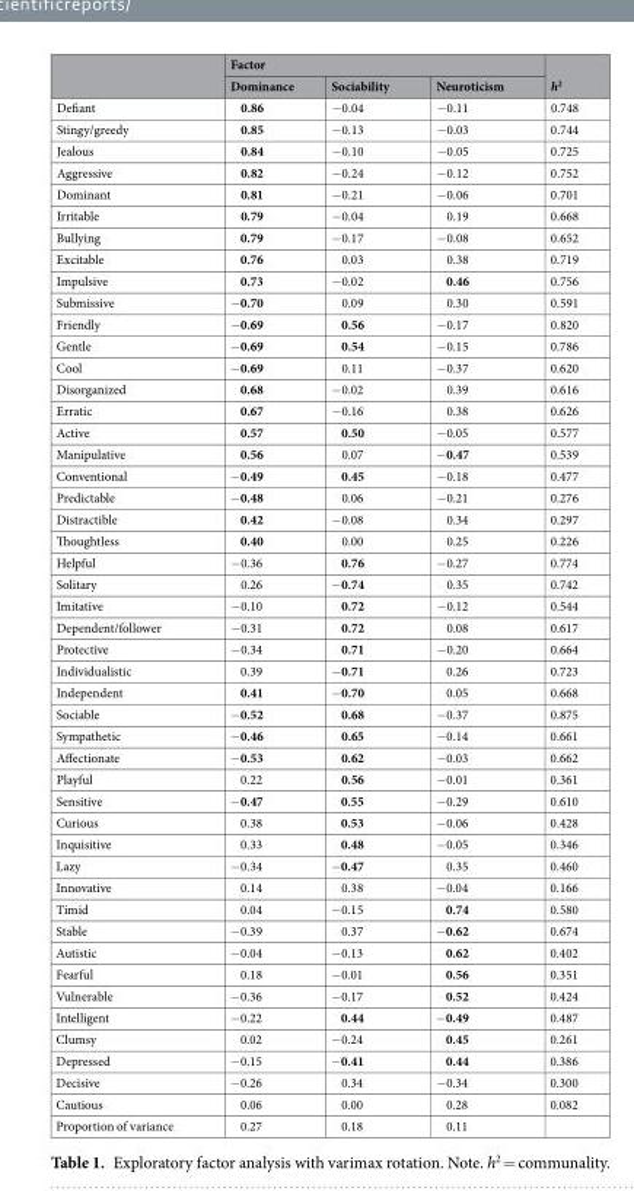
<table><thead><tr><td rowspan="2"></td><td colspan="3">Factor</td><td rowspan="2">h<sup>2</sup></td></tr><tr><td>Dominance</td><td>Sociability</td><td>Neuroticism</td></tr></thead><tbody><tr><td>Defiant</td><td>0.86</td><td>−0.04</td><td>−0.11</td><td>0.748</td></tr><tr><td>Stingy/greedy</td><td>0.85</td><td>−0.13</td><td>−0.03</td><td>0.744</td></tr><tr><td>Jealous</td><td>0.84</td><td>−0.10</td><td>−0.05</td><td>0.725</td></tr><tr><td>Aggressive</td><td>0.82</td><td>−0.24</td><td>−0.12</td><td>0.752</td></tr><tr><td>Dominant</td><td>0.81</td><td>−0.21</td><td>−0.06</td><td>0.701</td></tr><tr><td>Irritable</td><td>0.79</td><td>−0.04</td><td>0.19</td><td>0.668</td></tr><tr><td>Bullying</td><td>0.79</td><td>−0.17</td><td>−0.08</td><td>0.652</td></tr><tr><td>Excitable</td><td>0.76</td><td>0.03</td><td>0.38</td><td>0.719</td></tr><tr><td>Impulsive</td><td>0.73</td><td>−0.02</td><td>0.46</td><td>0.756</td></tr><tr><td>Submissive</td><td>−0.70</td><td>0.09</td><td>0.30</td><td>0.591</td></tr><tr><td>Friendly</td><td>−0.69</td><td>0.56</td><td>−0.17</td><td>0.820</td></tr><tr><td>Gentle</td><td>−0.69</td><td>0.54</td><td>−0.15</td><td>0.786</td></tr><tr><td>Cool</td><td>−0.69</td><td>0.11</td><td>−0.37</td><td>0.620</td></tr><tr><td>Disorganized</td><td>0.68</td><td>−0.02</td><td>0.39</td><td>0.616</td></tr><tr><td>Erratic</td><td>0.67</td><td>−0.16</td><td>0.38</td><td>0.626</td></tr><tr><td>Active</td><td>0.57</td><td>0.50</td><td>−0.05</td><td>0.577</td></tr><tr><td>Manipulative</td><td>0.56</td><td>0.07</td><td>−0.47</td><td>0.539</td></tr><tr><td>Conventional</td><td>−0.49</td><td>0.45</td><td>−0.18</td><td>0.477</td></tr><tr><td>Predictable</td><td>−0.48</td><td>0.06</td><td>−0.21</td><td>0.276</td></tr><tr><td>Distractible</td><td>0.42</td><td>−0.08</td><td>0.34</td><td>0.297</td></tr><tr><td>Thoughtless</td><td>0.40</td><td>0.00</td><td>0.25</td><td>0.226</td></tr><tr><td>Helpful</td><td>−0.36</td><td>0.76</td><td>−0.27</td><td>0.774</td></tr><tr><td>Solitary</td><td>0.26</td><td>−0.74</td><td>0.35</td><td>0.742</td></tr><tr><td>Imitative</td><td>−0.10</td><td>0.72</td><td>−0.12</td><td>0.544</td></tr><tr><td>Dependent/follower</td><td>−0.31</td><td>0.72</td><td>0.08</td><td>0.617</td></tr><tr><td>Protective</td><td>−0.34</td><td>0.71</td><td>−0.20</td><td>0.664</td></tr><tr><td>Individualistic</td><td>0.39</td><td>−0.71</td><td>0.26</td><td>0.723</td></tr><tr><td>Independent</td><td>0.41</td><td>−0.70</td><td>0.05</td><td>0.668</td></tr><tr><td>Sociable</td><td>−0.52</td><td>0.68</td><td>−0.37</td><td>0.875</td></tr><tr><td>Sympathetic</td><td>−0.46</td><td>0.65</td><td>−0.14</td><td>0.661</td></tr><tr><td>Affectionate</td><td>−0.53</td><td>0.62</td><td>−0.03</td><td>0.662</td></tr><tr><td>Playful</td><td>0.22</td><td>0.56</td><td>−0.01</td><td>0.361</td></tr><tr><td>Sensitive</td><td>−0.47</td><td>0.55</td><td>−0.29</td><td>0.610</td></tr><tr><td>Curious</td><td>0.38</td><td>0.53</td><td>−0.06</td><td>0.428</td></tr><tr><td>Inquisitive</td><td>0.33</td><td>0.48</td><td>−0.05</td><td>0.346</td></tr><tr><td>Lazy</td><td>−0.34</td><td>−0.47</td><td>0.35</td><td>0.460</td></tr><tr><td>Innovative</td><td>0.14</td><td>0.38</td><td>−0.04</td><td>0.166</td></tr><tr><td>Timid</td><td>0.04</td><td>−0.15</td><td>0.74</td><td>0.580</td></tr><tr><td>Stable</td><td>−0.39</td><td>0.37</td><td>−0.62</td><td>0.674</td></tr><tr><td>Autistic</td><td>−0.04</td><td>−0.13</td><td>0.62</td><td>0.402</td></tr><tr><td>Fearful</td><td>0.18</td><td>−0.01</td><td>0.56</td><td>0.351</td></tr><tr><td>Vulnerable</td><td>−0.36</td><td>−0.17</td><td>0.52</td><td>0.424</td></tr><tr><td>Intelligent</td><td>−0.22</td><td>0.44</td><td>−0.49</td><td>0.487</td></tr><tr><td>Clumsy</td><td>0.02</td><td>−0.24</td><td>0.45</td><td>0.261</td></tr><tr><td>Depressed</td><td>−0.15</td><td>−0.41</td><td>0.44</td><td>0.386</td></tr><tr><td>Decisive</td><td>−0.26</td><td>0.34</td><td>−0.34</td><td>0.300</td></tr><tr><td>Cautious</td><td>0.06</td><td>0.00</td><td>0.28</td><td>0.082</td></tr><tr><td>Proportion of variance</td><td>0.27</td><td>0.18</td><td>0.11</td><td></td></tr></tbody></table>